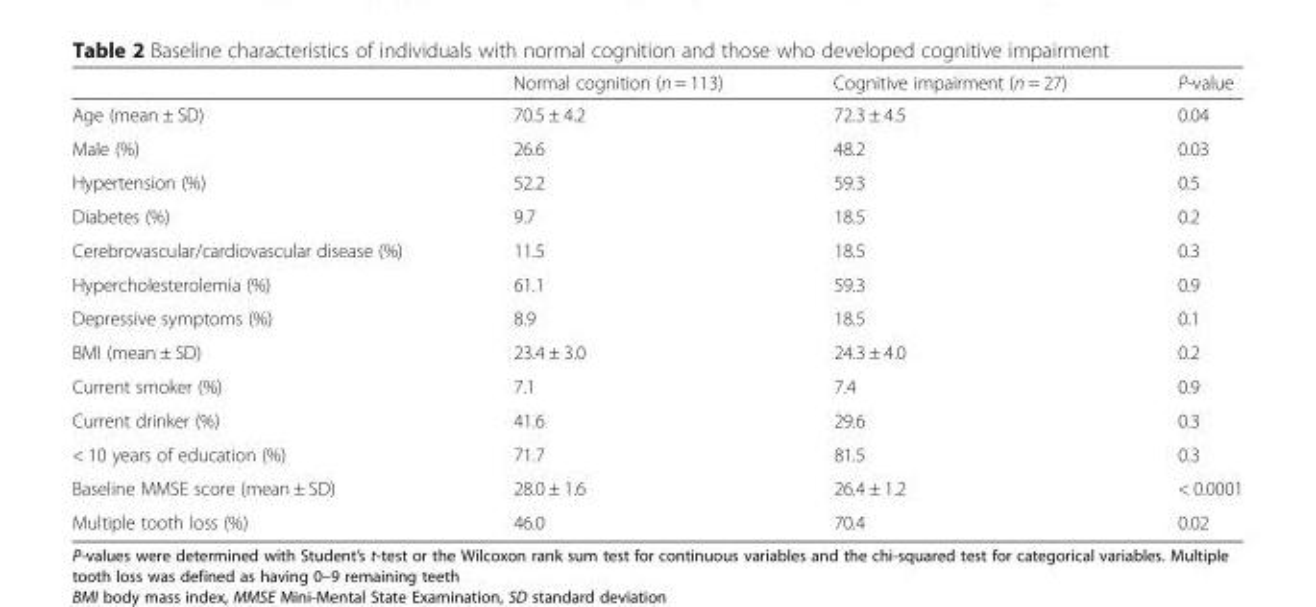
<table><thead><tr><td></td><td>Normal cognition (n = 113)</td><td>Cognitive impairment (n = 27)</td><td>P-value</td></tr></thead><tbody><tr><td>Age (mean ± SD)</td><td>70.5 ± 4.2</td><td>72.3 ± 4.5</td><td>0.04</td></tr><tr><td>Male (%)</td><td>26.6</td><td>48.2</td><td>0.03</td></tr><tr><td>Hypertension (%)</td><td>52.2</td><td>59.3</td><td>0.5</td></tr><tr><td>Diabetes (%)</td><td>9.7</td><td>18.5</td><td>0.2</td></tr><tr><td>Cerebrovascular/cardiovascular disease (%)</td><td>11.5</td><td>18.5</td><td>0.3</td></tr><tr><td>Hypercholesterolemia (%)</td><td>61.1</td><td>59.3</td><td>0.9</td></tr><tr><td>Depressive symptoms (%)</td><td>8.9</td><td>18.5</td><td>0.1</td></tr><tr><td>BMI (mean ± SD)</td><td>23.4 ± 3.0</td><td>24.3 ± 4.0</td><td>0.2</td></tr><tr><td>Current smoker (%)</td><td>7.1</td><td>7.4</td><td>0.9</td></tr><tr><td>Current drinker (%)</td><td>41.6</td><td>29.6</td><td>0.3</td></tr><tr><td>&lt; 10 years of education (%)</td><td>71.7</td><td>81.5</td><td>0.3</td></tr><tr><td>Baseline MMSE score (mean ± SD)</td><td>28.0 ± 1.6</td><td>26.4 ± 1.2</td><td>&lt; 0.0001</td></tr><tr><td>Multiple tooth loss (%)</td><td>46.0</td><td>70.4</td><td>0.02</td></tr></tbody></table>